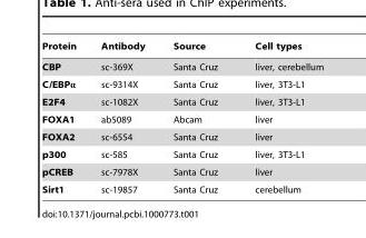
<table><thead><tr><td>Protein</td><td>Antibody</td><td>Source</td><td>Cell types</td></tr></thead><tbody><tr><td>CBP</td><td>sc-369X</td><td>Santa Cruz</td><td>liver, cerebellum</td></tr><tr><td>C/EBPα</td><td>sc-9314X</td><td>Santa Cruz</td><td>liver, 3T3-L1</td></tr><tr><td>E2F4</td><td>sc-1082X</td><td>Santa Cruz</td><td>liver, 3T3-L1</td></tr><tr><td>FOXA1</td><td>ab5089</td><td>Abcam</td><td>liver</td></tr><tr><td>FOXA2</td><td>sc-6554</td><td>Santa Cruz</td><td>liver</td></tr><tr><td>p300</td><td>sc-585</td><td>Santa Cruz</td><td>liver, 3T3-L1</td></tr><tr><td>pCREB</td><td>sc-7978X</td><td>Santa Cruz</td><td>liver</td></tr><tr><td>Sirt1</td><td>sc-19857</td><td>Santa Cruz</td><td>cerebellum</td></tr></tbody></table>